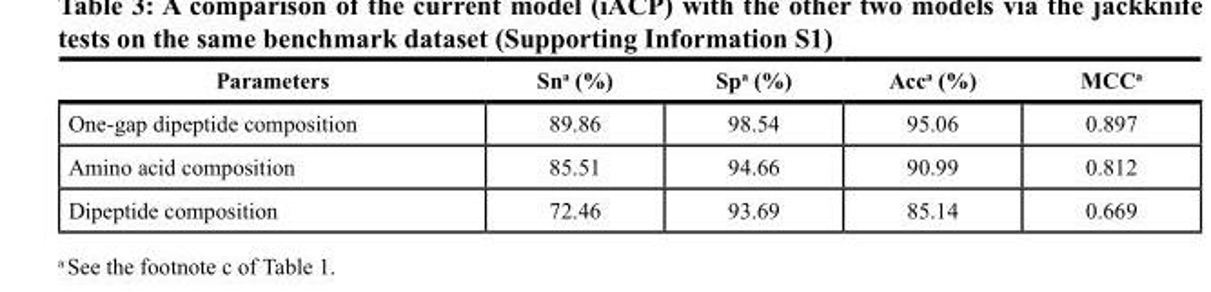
<table><thead><tr><td>Parameters</td><td>Sn<sup>a</sup> (%)</td><td>Sp<sup>a</sup> (%)</td><td>Acc<sup>a</sup> (%)</td><td>MCC<sup>a</sup></td></tr></thead><tbody><tr><td>One-gap dipeptide composition</td><td>89.86</td><td>98.54</td><td>95.06</td><td>0.897</td></tr><tr><td>Amino acid composition</td><td>85.51</td><td>94.66</td><td>90.99</td><td>0.812</td></tr><tr><td>Dipeptide composition</td><td>72.46</td><td>93.69</td><td>85.14</td><td>0.669</td></tr></tbody></table>